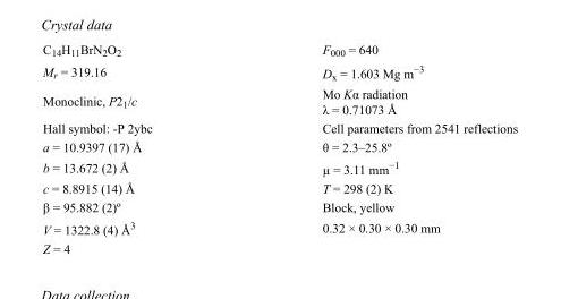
<table><tbody><tr><td>C<sub>14</sub>H<sub>11</sub>BrN<sub>2</sub>O<sub>2</sub></td><td>F<sub>000</sub> = 640</td></tr><tr><td>M<sub>r</sub> = 319.16</td><td>D<sub>x</sub> = 1.603 Mg m<sup>−3</sup></td></tr><tr><td>Monoclinic, P2<sub>1</sub>/c</td><td>Mo Kα radiation λ = 0.71073 Å</td></tr><tr><td>Hall symbol: -P 2ybc</td><td>Cell parameters from 2541 reflections</td></tr><tr><td>a = 10.9397 (17) Å</td><td>θ = 2.3–25.8º</td></tr><tr><td>b = 13.672 (2) Å</td><td>µ = 3.11 mm<sup>−1</sup></td></tr><tr><td>c = 8.8915 (14) Å</td><td>T = 298 (2) K</td></tr><tr><td>β = 95.882 (2)º</td><td>Block, yellow</td></tr><tr><td>V = 1322.8 (4) Å<sup>3</sup></td><td>0.32 × 0.30 × 0.30 mm</td></tr><tr><td>Z = 4</td><td></td></tr></tbody></table>